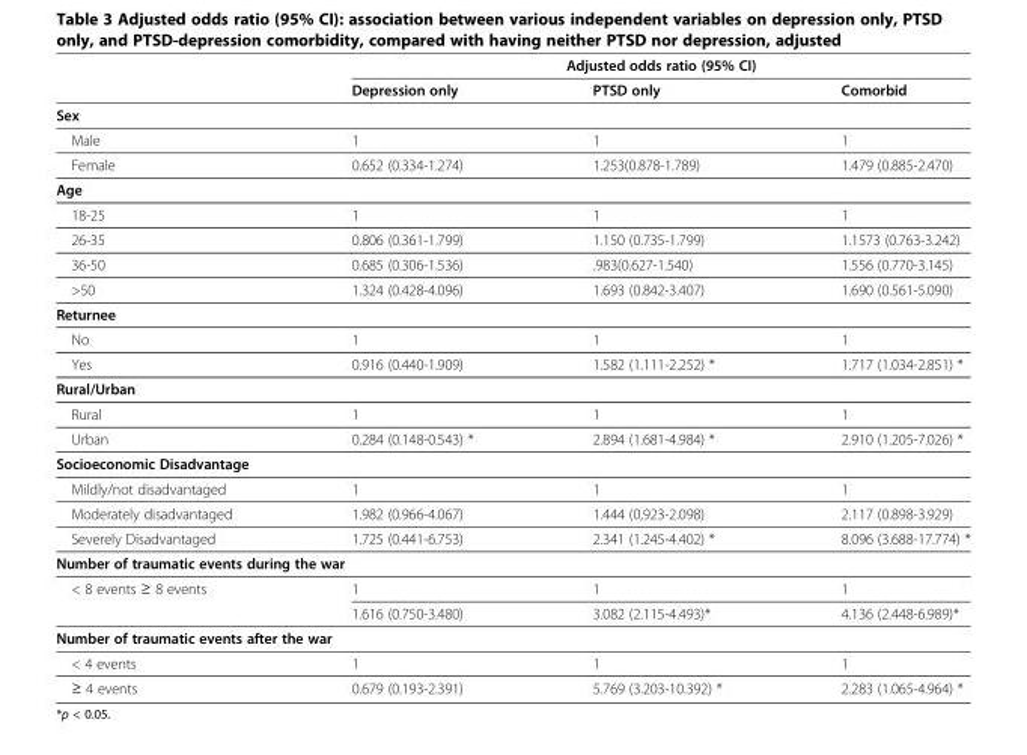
<table><thead><tr><td rowspan="2"></td><td colspan="3">Adjusted odds ratio (95% CI)</td></tr><tr><td>Depression only</td><td>PTSD only</td><td>Comorbid</td></tr></thead><tbody><tr><td colspan="4">Sex</td></tr><tr><td>Male</td><td>1</td><td>1</td><td>1</td></tr><tr><td>Female</td><td>0.652 (0.334-1.274)</td><td>1.253(0.878-1.789)</td><td>1.479 (0.885-2.470)</td></tr><tr><td colspan="4">Age</td></tr><tr><td>18-25</td><td>1</td><td>1</td><td>1</td></tr><tr><td>26-35</td><td>0.806 (0.361-1.799)</td><td>1.150 (0.735-1.799)</td><td>1.1573 (0.763-3.242)</td></tr><tr><td>36-50</td><td>0.685 (0.306-1.536)</td><td>.983(0.627-1.540)</td><td>1.556 (0.770-3.145)</td></tr><tr><td>&gt;50</td><td>1.324 (0.428-4.096)</td><td>1.693 (0.842-3.407)</td><td>1.690 (0.561-5.090)</td></tr><tr><td colspan="4">Returnee</td></tr><tr><td>No</td><td>1</td><td>1</td><td>1</td></tr><tr><td>Yes</td><td>0.916 (0.440-1.909)</td><td>1.582 (1.111-2.252) *</td><td>1.717 (1.034-2.851) *</td></tr><tr><td colspan="4">Rural/Urban</td></tr><tr><td>Rural</td><td>1</td><td>1</td><td>1</td></tr><tr><td>Urban</td><td>0.284 (0.148-0.543) *</td><td>2.894 (1.681-4.984) *</td><td>2.910 (1.205-7.026) *</td></tr><tr><td colspan="4">Socioeconomic Disadvantage</td></tr><tr><td>Mildly/not disadvantaged</td><td>1</td><td>1</td><td>1</td></tr><tr><td>Moderately disadvantaged</td><td>1.982 (0.966-4.067)</td><td>1.444 (0,923-2.098)</td><td>2.117 (0.898-3.929)</td></tr><tr><td>Severely Disadvantaged</td><td>1.725 (0.441-6.753)</td><td>2.341 (1.245-4.402) *</td><td>8.096 (3.688-17.774) *</td></tr><tr><td colspan="4">Number of traumatic events during the war</td></tr><tr><td rowspan="2">&lt; 8 events ≥ 8 events</td><td>1</td><td>1</td><td>1</td></tr><tr><td>1.616 (0.750-3.480)</td><td>3.082 (2.115-4.493)*</td><td>4.136 (2.448-6.989)*</td></tr><tr><td colspan="4">Number of traumatic events after the war</td></tr><tr><td>&lt; 4 events</td><td>1</td><td>1</td><td>1</td></tr><tr><td>≥ 4 events</td><td>0.679 (0.193-2.391)</td><td>5.769 (3.203-10.392) *</td><td>2.283 (1.065-4.964) *</td></tr></tbody></table>